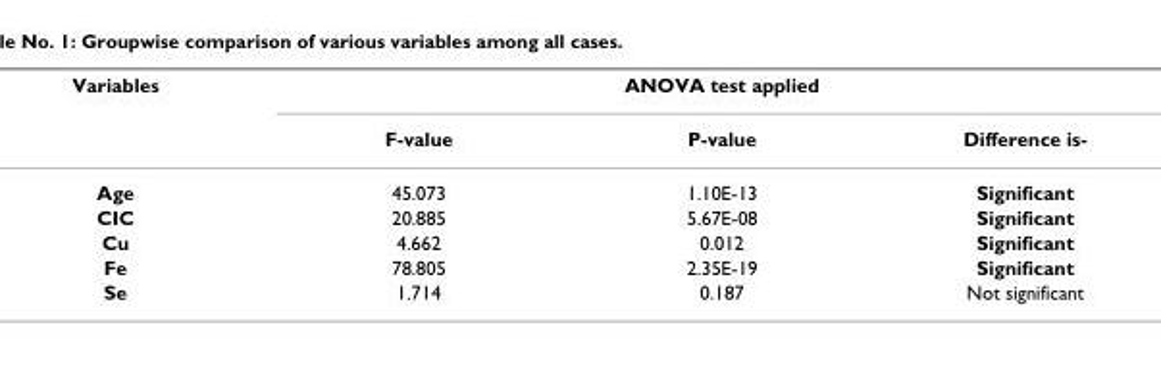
<table><thead><tr><td rowspan="2">Variables</td><td colspan="3">ANOVA test applied</td></tr><tr><td>F-value</td><td>P-value</td><td>Difference is-</td></tr></thead><tbody><tr><td>Age</td><td>45.073</td><td>1.10E-13</td><td>Significant</td></tr><tr><td>CIC</td><td>20.885</td><td>5.67E-08</td><td>Significant</td></tr><tr><td>Cu</td><td>4.662</td><td>0.012</td><td>Significant</td></tr><tr><td>Fe</td><td>78.805</td><td>2.35E-19</td><td>Significant</td></tr><tr><td>Se</td><td>1.714</td><td>0.187</td><td>Not significant</td></tr></tbody></table>